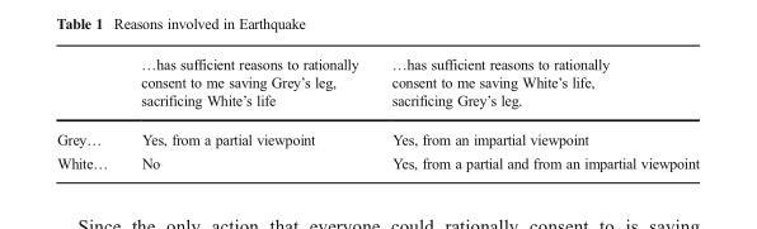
<table><thead><tr><td></td><td>…has sufficient reasons to rationally consent to me saving Grey’s leg, sacrificing White’s life</td><td>…has sufficient reasons to rationally consent to me saving White’s life, sacrificing Grey’s leg.</td></tr></thead><tbody><tr><td>Grey…</td><td>Yes, from a partial viewpoint</td><td>Yes, from an impartial viewpoint</td></tr><tr><td>White…</td><td>No</td><td>Yes, from a partial and from an impartial viewpoint</td></tr></tbody></table>